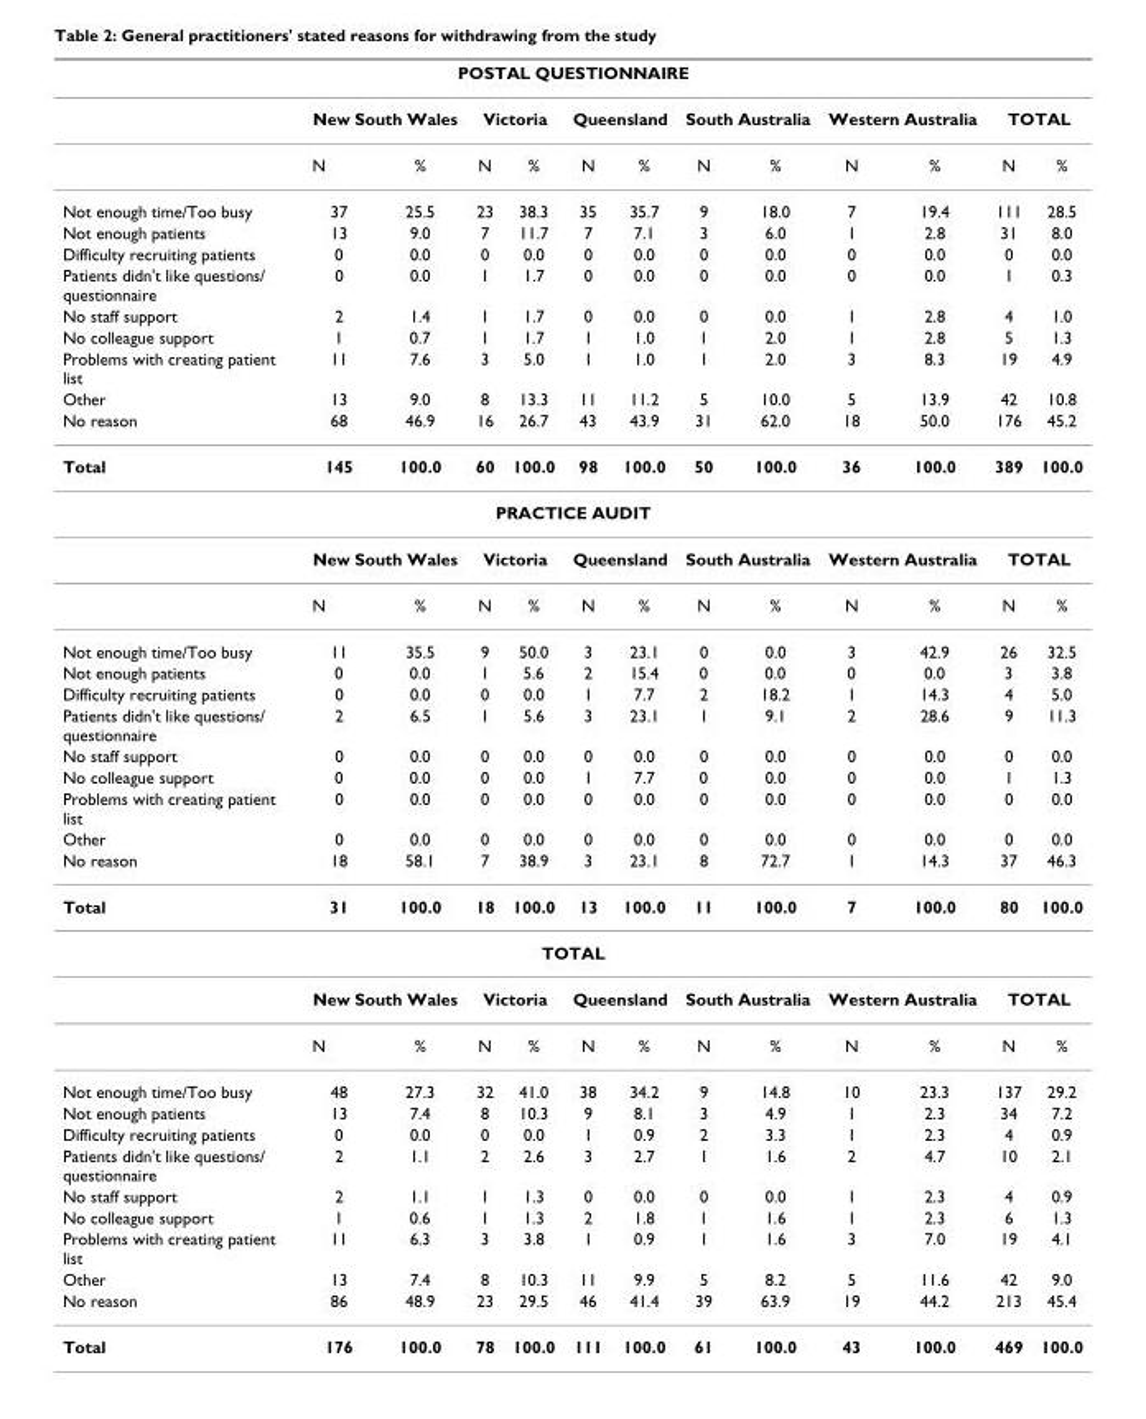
<table><thead><tr><td colspan="13">POSTAL QUESTIONNAIRE</td></tr><tr><td rowspan="2"></td><td colspan="2">New South Wales</td><td colspan="2">Victoria</td><td colspan="2">Queensland</td><td colspan="2">South Australia</td><td colspan="2">Western Australia</td><td colspan="2">TOTAL</td></tr><tr><td>N</td><td>%</td><td>N</td><td>%</td><td>N</td><td>%</td><td>N</td><td>%</td><td>N</td><td>%</td><td>N</td><td>%</td></tr></thead><tbody><tr><td>Not enough time/Too busy</td><td>37</td><td>25.5</td><td>23</td><td>38.3</td><td>35</td><td>35.7</td><td>9</td><td>18.0</td><td>7</td><td>19.4</td><td>111</td><td>28.5</td></tr><tr><td>Not enough patients</td><td>13</td><td>9.0</td><td>7</td><td>11.7</td><td>7</td><td>7.1</td><td>3</td><td>6.0</td><td>1</td><td>2.8</td><td>31</td><td>8.0</td></tr><tr><td>Difficulty recruiting patients</td><td>0</td><td>0.0</td><td>0</td><td>0.0</td><td>0</td><td>0.0</td><td>0</td><td>0.0</td><td>0</td><td>0.0</td><td>0</td><td>0.0</td></tr><tr><td>Patients didn&#x27;t like questions/ questionnaire</td><td>0</td><td>0.0</td><td>1</td><td>1.7</td><td>0</td><td>0.0</td><td>0</td><td>0.0</td><td>0</td><td>0.0</td><td>1</td><td>0.3</td></tr><tr><td>No staff support</td><td>2</td><td>1.4</td><td>1</td><td>1.7</td><td>0</td><td>0.0</td><td>0</td><td>0.0</td><td>1</td><td>2.8</td><td>4</td><td>1.0</td></tr><tr><td>No colleague support</td><td>1</td><td>0.7</td><td>1</td><td>1.7</td><td>1</td><td>1.0</td><td>1</td><td>2.0</td><td>1</td><td>2.8</td><td>5</td><td>1.3</td></tr><tr><td>Problems with creating patient list</td><td>11</td><td>7.6</td><td>3</td><td>5.0</td><td>1</td><td>1.0</td><td>1</td><td>2.0</td><td>3</td><td>8.3</td><td>19</td><td>4.9</td></tr><tr><td>Other</td><td>13</td><td>9.0</td><td>8</td><td>13.3</td><td>11</td><td>11.2</td><td>5</td><td>10.0</td><td>5</td><td>13.9</td><td>42</td><td>10.8</td></tr><tr><td>No reason</td><td>68</td><td>46.9</td><td>16</td><td>26.7</td><td>43</td><td>43.9</td><td>31</td><td>62.0</td><td>18</td><td>50.0</td><td>176</td><td>45.2</td></tr><tr><td>Total</td><td>145</td><td>100.0</td><td>60</td><td>100.0</td><td>98</td><td>100.0</td><td>50</td><td>100.0</td><td>36</td><td>100.0</td><td>389</td><td>100.0</td></tr><tr><td colspan="13">PRACTICE AUDIT</td></tr><tr><td></td><td colspan="2">New South Wales</td><td colspan="2">Victoria</td><td colspan="2">Queensland</td><td colspan="2">South Australia</td><td colspan="2">Western Australia</td><td colspan="2">TOTAL</td></tr><tr><td></td><td>N</td><td>%</td><td>N</td><td>%</td><td>N</td><td>%</td><td>N</td><td>%</td><td>N</td><td>%</td><td>N</td><td>%</td></tr><tr><td>Not enough time/Too busy</td><td>11</td><td>35.5</td><td>9</td><td>50.0</td><td>3</td><td>23.1</td><td>0</td><td>0.0</td><td>3</td><td>42.9</td><td>26</td><td>32.5</td></tr><tr><td>Not enough patients</td><td>0</td><td>0.0</td><td>1</td><td>5.6</td><td>2</td><td>15.4</td><td>0</td><td>0.0</td><td>0</td><td>0.0</td><td>3</td><td>3.8</td></tr><tr><td>Difficulty recruiting patients</td><td>0</td><td>0.0</td><td>0</td><td>0.0</td><td>1</td><td>7.7</td><td>2</td><td>18.2</td><td>1</td><td>14.3</td><td>4</td><td>5.0</td></tr><tr><td>Patients didn&#x27;t like questions/ questionnaire</td><td>2</td><td>6.5</td><td>1</td><td>5.6</td><td>3</td><td>23.1</td><td>1</td><td>9.1</td><td>2</td><td>28.6</td><td>9</td><td>11.3</td></tr><tr><td>No staff support</td><td>0</td><td>0.0</td><td>0</td><td>0.0</td><td>0</td><td>0.0</td><td>0</td><td>0.0</td><td>0</td><td>0.0</td><td>0</td><td>0.0</td></tr><tr><td>No colleague support</td><td>0</td><td>0.0</td><td>0</td><td>0.0</td><td>1</td><td>7.7</td><td>0</td><td>0.0</td><td>0</td><td>0.0</td><td>1</td><td>1.3</td></tr><tr><td>Problems with creating patient list</td><td>0</td><td>0.0</td><td>0</td><td>0.0</td><td>0</td><td>0.0</td><td>0</td><td>0.0</td><td>0</td><td>0.0</td><td>0</td><td>0.0</td></tr><tr><td>Other</td><td>0</td><td>0.0</td><td>0</td><td>0.0</td><td>0</td><td>0.0</td><td>0</td><td>0.0</td><td>0</td><td>0.0</td><td>0</td><td>0.0</td></tr><tr><td>No reason</td><td>18</td><td>58.1</td><td>7</td><td>38.9</td><td>3</td><td>23.1</td><td>8</td><td>72.7</td><td>1</td><td>14.3</td><td>37</td><td>46.3</td></tr><tr><td>Total</td><td>31</td><td>100.0</td><td>18</td><td>100.0</td><td>13</td><td>100.0</td><td>11</td><td>100.0</td><td>7</td><td>100.0</td><td>80</td><td>100.0</td></tr><tr><td colspan="13">TOTAL</td></tr><tr><td></td><td colspan="2">New South Wales</td><td colspan="2">Victoria</td><td colspan="2">Queensland</td><td colspan="2">South Australia</td><td colspan="2">Western Australia</td><td colspan="2">TOTAL</td></tr><tr><td></td><td>N</td><td>%</td><td>N</td><td>%</td><td>N</td><td>%</td><td>N</td><td>%</td><td>N</td><td>%</td><td>N</td><td>%</td></tr><tr><td>Not enough time/Too busy</td><td>48</td><td>27.3</td><td>32</td><td>41.0</td><td>38</td><td>34.2</td><td>9</td><td>14.8</td><td>10</td><td>23.3</td><td>137</td><td>29.2</td></tr><tr><td>Not enough patients</td><td>13</td><td>7.4</td><td>8</td><td>10.3</td><td>9</td><td>8.1</td><td>3</td><td>4.9</td><td>1</td><td>2.3</td><td>34</td><td>7.2</td></tr><tr><td>Difficulty recruiting patients</td><td>0</td><td>0.0</td><td>0</td><td>0.0</td><td>1</td><td>0.9</td><td>2</td><td>3.3</td><td>1</td><td>2.3</td><td>4</td><td>0.9</td></tr><tr><td>Patients didn&#x27;t like questions/ questionnaire</td><td>2</td><td>1.1</td><td>2</td><td>2.6</td><td>3</td><td>2.7</td><td>1</td><td>1.6</td><td>2</td><td>4.7</td><td>10</td><td>2.1</td></tr><tr><td>No staff support</td><td>2</td><td>1.1</td><td>1</td><td>1.3</td><td>0</td><td>0.0</td><td>0</td><td>0.0</td><td>1</td><td>2.3</td><td>4</td><td>0.9</td></tr><tr><td>No colleague support</td><td>1</td><td>0.6</td><td>1</td><td>1.3</td><td>2</td><td>1.8</td><td>1</td><td>1.6</td><td>1</td><td>2.3</td><td>6</td><td>1.3</td></tr><tr><td>Problems with creating patient list</td><td>11</td><td>6.3</td><td>3</td><td>3.8</td><td>1</td><td>0.9</td><td>1</td><td>1.6</td><td>3</td><td>7.0</td><td>19</td><td>4.1</td></tr><tr><td>Other</td><td>13</td><td>7.4</td><td>8</td><td>10.3</td><td>11</td><td>9.9</td><td>5</td><td>8.2</td><td>5</td><td>11.6</td><td>42</td><td>9.0</td></tr><tr><td>No reason</td><td>86</td><td>48.9</td><td>23</td><td>29.5</td><td>46</td><td>41.4</td><td>39</td><td>63.9</td><td>19</td><td>44.2</td><td>213</td><td>45.4</td></tr><tr><td>Total</td><td>176</td><td>100.0</td><td>78</td><td>100.0</td><td>111</td><td>100.0</td><td>61</td><td>100.0</td><td>43</td><td>100.0</td><td>469</td><td>100.0</td></tr></tbody></table>